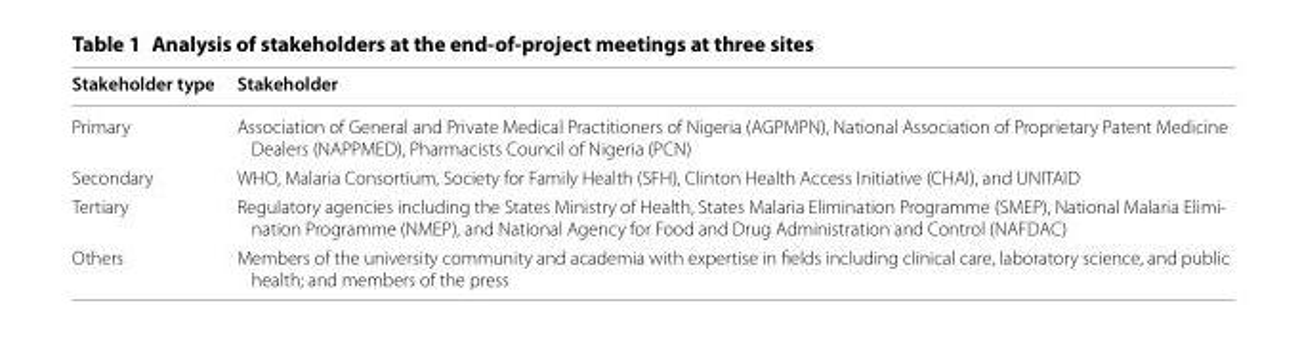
<table><thead><tr><td>Stakeholder type</td><td>Stakeholder</td></tr></thead><tbody><tr><td>Primary</td><td>Association of General and Private Medical Practitioners of Nigeria (AGPMPN), National Association of Proprietary Patent Medicine Dealers (NAPPMED), Pharmacists Council of Nigeria (PCN)</td></tr><tr><td>Secondary</td><td>WHO, Malaria Consortium, Society for Family Health (SFH), Clinton Health Access Initiative (CHAI), and UNITAID</td></tr><tr><td>Tertiary</td><td>Regulatory agencies including the States Ministry of Health, States Malaria Elimination Programme (SMEP), National Malaria Elimi- nation Programme (NMEP), and National Agency for Food and Drug Administration and Control (NAFDAC)</td></tr><tr><td>Others</td><td>Members of the university community and academia with expertise in fields including clinical care, laboratory science, and public health; and members of the press</td></tr></tbody></table>